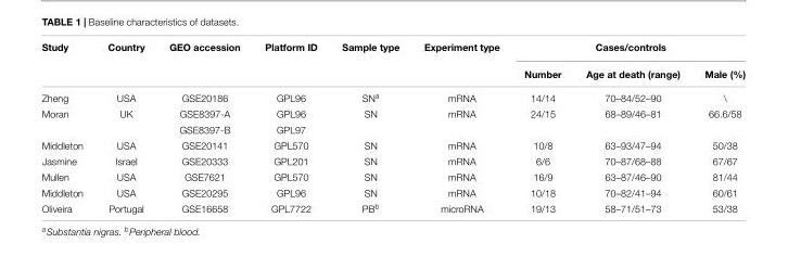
<table><thead><tr><td rowspan="2">Study</td><td rowspan="2">Country</td><td rowspan="2">GEO accession</td><td rowspan="2">Platform ID</td><td rowspan="2">Sample type</td><td rowspan="2">Experiment type</td><td colspan="3">Cases/controls</td></tr><tr><td>Number</td><td>Age at death (range)</td><td>Male (%)</td></tr></thead><tbody><tr><td>Zheng</td><td>USA</td><td>GSE20186</td><td>GPL96</td><td>SN<sup>a</sup></td><td>mRNA</td><td>14/14</td><td>70–84/52–90</td><td>\</td></tr><tr><td rowspan="2">Moran</td><td>UK</td><td>GSE8397-A</td><td>GPL96</td><td>SN</td><td>mRNA</td><td>24/15</td><td>68–89/46–81</td><td>66.6/58</td></tr><tr><td></td><td>GSE8397-B</td><td>GPL97</td><td></td><td></td><td></td><td></td><td></td></tr><tr><td>Middleton</td><td>USA</td><td>GSE20141</td><td>GPL570</td><td>SN</td><td>mRNA</td><td>10/8</td><td>63–93/47–94</td><td>50/38</td></tr><tr><td>Jasmine</td><td>Israel</td><td>GSE20333</td><td>GPL201</td><td>SN</td><td>mRNA</td><td>6/6</td><td>70–87/68–88</td><td>67/67</td></tr><tr><td>Mullen</td><td>USA</td><td>GSE7621</td><td>GPL570</td><td>SN</td><td>mRNA</td><td>16/9</td><td>63–87/46–90</td><td>81/44</td></tr><tr><td>Middleton</td><td>USA</td><td>GSE20295</td><td>GPL96</td><td>SN</td><td>mRNA</td><td>10/18</td><td>70–82/41–94</td><td>60/61</td></tr><tr><td>Oliveira</td><td>Portugal</td><td>GSE16658</td><td>GPL7722</td><td>PB<sup>b</sup></td><td>microRNA</td><td>19/13</td><td>58–71/51–73</td><td>53/38</td></tr></tbody></table>